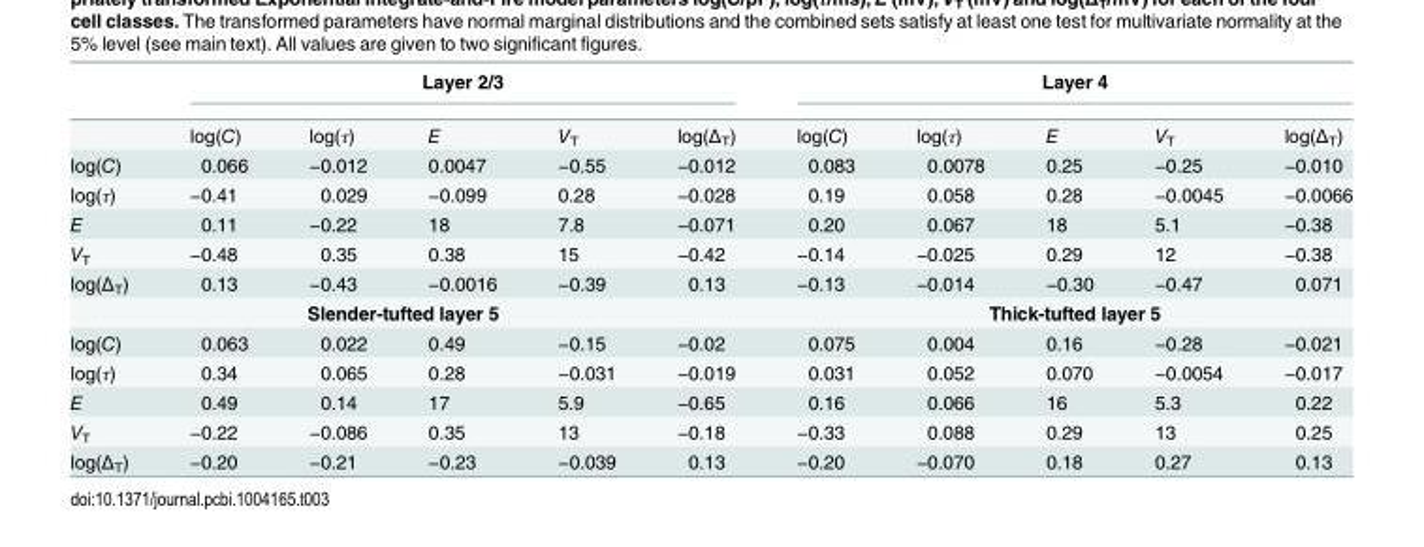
<table><thead><tr><td rowspan="2"></td><td colspan="5">Layer 2/3</td><td colspan="5">Layer 4</td></tr><tr><td>log(C)</td><td>log(τ)</td><td>E</td><td>V<sub>T</sub></td><td>log(Δ<sub>T</sub>)</td><td>log(C)</td><td>log(τ)</td><td>E</td><td>V<sub>T</sub></td><td>log(Δ<sub>T</sub>)</td></tr></thead><tbody><tr><td>log(C)</td><td>0.066</td><td>−0.012</td><td>0.0047</td><td>−0.55</td><td>−0.012</td><td>0.083</td><td>0.0078</td><td>0.25</td><td>−0.25</td><td>−0.010</td></tr><tr><td>log(τ)</td><td>−0.41</td><td>0.029</td><td>−0.099</td><td>0.28</td><td>−0.028</td><td>0.19</td><td>0.058</td><td>0.28</td><td>−0.0045</td><td>−0.0066</td></tr><tr><td>E</td><td>0.11</td><td>−0.22</td><td>18</td><td>7.8</td><td>−0.071</td><td>0.20</td><td>0.067</td><td>18</td><td>5.1</td><td>−0.38</td></tr><tr><td>V<sub>T</sub></td><td>−0.48</td><td>0.35</td><td>0.38</td><td>15</td><td>−0.42</td><td>−0.14</td><td>−0.025</td><td>0.29</td><td>12</td><td>−0.38</td></tr><tr><td>log(Δ<sub>T</sub>)</td><td>0.13</td><td>−0.43</td><td>−0.0016</td><td>−0.39</td><td>0.13</td><td>−0.13</td><td>−0.014</td><td>−0.30</td><td>−0.47</td><td>0.071</td></tr><tr><td colspan="6">Slender-tufted layer 5</td><td colspan="5">Thick-tufted layer 5</td></tr><tr><td>log(C)</td><td>0.063</td><td>0.022</td><td>0.49</td><td>−0.15</td><td>−0.02</td><td>0.075</td><td>0.004</td><td>0.16</td><td>−0.28</td><td>−0.021</td></tr><tr><td>log(τ)</td><td>0.34</td><td>0.065</td><td>0.28</td><td>−0.031</td><td>−0.019</td><td>0.031</td><td>0.052</td><td>0.070</td><td>−0.0054</td><td>−0.017</td></tr><tr><td>E</td><td>0.49</td><td>0.14</td><td>17</td><td>5.9</td><td>−0.65</td><td>0.16</td><td>0.066</td><td>16</td><td>5.3</td><td>0.22</td></tr><tr><td>V<sub>T</sub></td><td>−0.22</td><td>−0.086</td><td>0.35</td><td>13</td><td>−0.18</td><td>−0.33</td><td>0.088</td><td>0.29</td><td>13</td><td>0.25</td></tr><tr><td>log(Δ<sub>T</sub>)</td><td>−0.20</td><td>−0.21</td><td>−0.23</td><td>−0.039</td><td>0.13</td><td>−0.20</td><td>−0.070</td><td>0.18</td><td>0.27</td><td>0.13</td></tr></tbody></table>